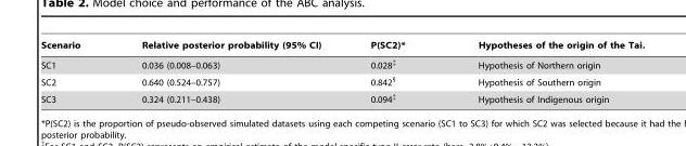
<table><thead><tr><td>Scenario</td><td>Relative posterior probability (95% CI)</td><td>P(SC2)*</td><td>Hypotheses of the origin of the Tai.</td></tr></thead><tbody><tr><td>SC1</td><td>0.036 (0.008–0.063)</td><td>0.028‡</td><td>Hypothesis of Northern origin</td></tr><tr><td>SC2</td><td>0.640 (0.524–0.757)</td><td>0.842§</td><td>Hypothesis of Southern origin</td></tr><tr><td>SC3</td><td>0.324 (0.211–0.438)</td><td>0.094‡</td><td>Hypothesis of Indigenous origin</td></tr></tbody></table>